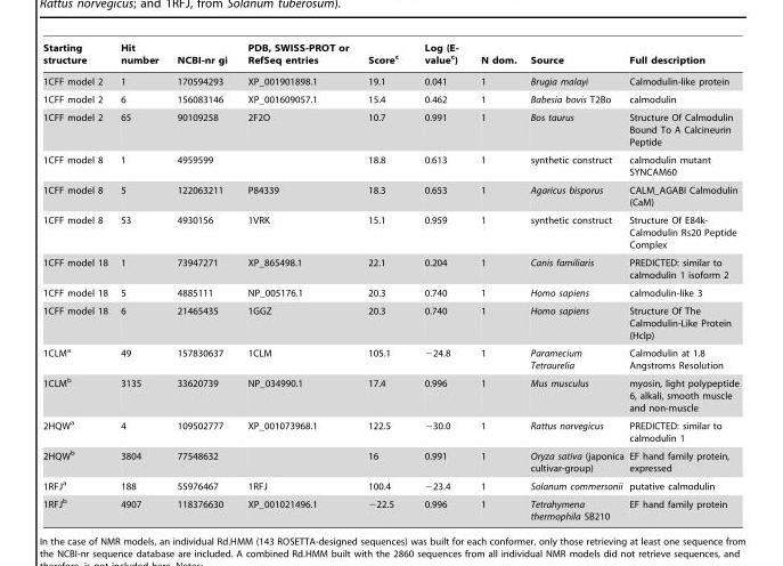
<table><thead><tr><td>Starting structure</td><td>Hit number</td><td>NCBI-nr gi</td><td>PDB, SWISS-PROT or RefSeq entries</td><td>Score<sup>c</sup></td><td>Log (E- value<sup>c</sup>)</td><td>N dom.</td><td>Source</td><td>Full description</td></tr></thead><tbody><tr><td>1CFF model 2</td><td>1</td><td>170594293</td><td>XP_001901898.1</td><td>19.1</td><td>0.041</td><td>1</td><td>Brugia malayi</td><td>Calmodulin-like protein</td></tr><tr><td>1CFF model 2</td><td>6</td><td>156083146</td><td>XP_001609057.1</td><td>15.4</td><td>0.462</td><td>1</td><td>Babesia bovis T2Bo</td><td>calmodulin</td></tr><tr><td>1CFF model 2</td><td>65</td><td>90109258</td><td>2F2O</td><td>10.7</td><td>0.991</td><td>1</td><td>Bos taurus</td><td>Structure Of Calmodulin Bound To A Calcineurin Peptide</td></tr><tr><td>1CFF model 8</td><td>1</td><td>4959599</td><td></td><td>18.8</td><td>0.613</td><td>1</td><td>synthetic construct</td><td>calmodulin mutant SYNCAM60</td></tr><tr><td>1CFF model 8</td><td>5</td><td>122063211</td><td>P84339</td><td>18.3</td><td>0.653</td><td>1</td><td>Agaricus bisporus</td><td>CALM_AGABI Calmodulin (CaM)</td></tr><tr><td>1CFF model 8</td><td>53</td><td>4930156</td><td>1VRK</td><td>15.1</td><td>0.959</td><td>1</td><td>synthetic construct</td><td>Structure Of E84k- Calmodulin Rs20 Peptide Complex</td></tr><tr><td>1CFF model 18</td><td>1</td><td>73947271</td><td>XP_865498.1</td><td>22.1</td><td>0.204</td><td>1</td><td>Canis familiaris</td><td>PREDICTED: similar to calmodulin 1 isoform 2</td></tr><tr><td>1CFF model 18</td><td>5</td><td>4885111</td><td>NP_005176.1</td><td>20.3</td><td>0.740</td><td>1</td><td>Homo sapiens</td><td>calmodulin-like 3</td></tr><tr><td>1CFF model 18</td><td>6</td><td>21465435</td><td>1GGZ</td><td>20.3</td><td>0.740</td><td>1</td><td>Homo sapiens</td><td>Structure Of The Calmodulin-Like Protein (Hclp)</td></tr><tr><td>1CLM<sup>a</sup></td><td>49</td><td>157830637</td><td>1CLM</td><td>105.1</td><td>−24.8</td><td>1</td><td>Paramecium Tetraurelia</td><td>Calmodulin at 1.8 Angstroms Resolution</td></tr><tr><td>1CLM<sup>b</sup></td><td>3135</td><td>33620739</td><td>NP_034990.1</td><td>17.4</td><td>0.996</td><td>1</td><td>Mus musculus</td><td>myosin, light polypeptide 6, alkali, smooth muscle and non-muscle</td></tr><tr><td>2HQW<sup>a</sup></td><td>4</td><td>109502777</td><td>XP_001073968.1</td><td>122.5</td><td>−30.0</td><td>1</td><td>Rattus norvegicus</td><td>PREDICTED: similar to calmodulin 1</td></tr><tr><td>2HQW<sup>b</sup></td><td>3804</td><td>77548632</td><td></td><td>16</td><td>0.991</td><td>1</td><td>Oryza sativa (japonica cultivar-group)</td><td>EF hand family protein, expressed</td></tr><tr><td>1RFJ<sup>a</sup></td><td>188</td><td>55976467</td><td>1RFJ</td><td>100.4</td><td>−23.4</td><td>1</td><td>Solanum commersonii</td><td>putative calmodulin</td></tr><tr><td>1RFJ<sup>b</sup></td><td>4907</td><td>118376630</td><td>XP_001021496.1</td><td>−22.5</td><td>0.996</td><td>1</td><td>Tetrahymena thermophila SB210</td><td>EF hand family protein</td></tr></tbody></table>